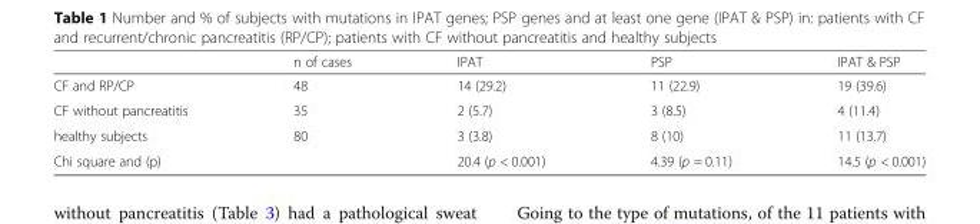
<table><thead><tr><td></td><td>n of cases</td><td>IPAT</td><td>PSP</td><td>IPAT &amp; PSP</td></tr></thead><tbody><tr><td>CF and RP/CP</td><td>48</td><td>14 (29.2)</td><td>11 (22.9)</td><td>19 (39.6)</td></tr><tr><td>CF without pancreatitis</td><td>35</td><td>2 (5.7)</td><td>3 (8.5)</td><td>4 (11.4)</td></tr><tr><td>healthy subjects</td><td>80</td><td>3 (3.8)</td><td>8 (10)</td><td>11 (13.7)</td></tr><tr><td>Chi square and (p)</td><td></td><td>20.4 (p &lt; 0.001)</td><td>4.39 (p = 0.11)</td><td>14.5 (p &lt; 0.001)</td></tr></tbody></table>